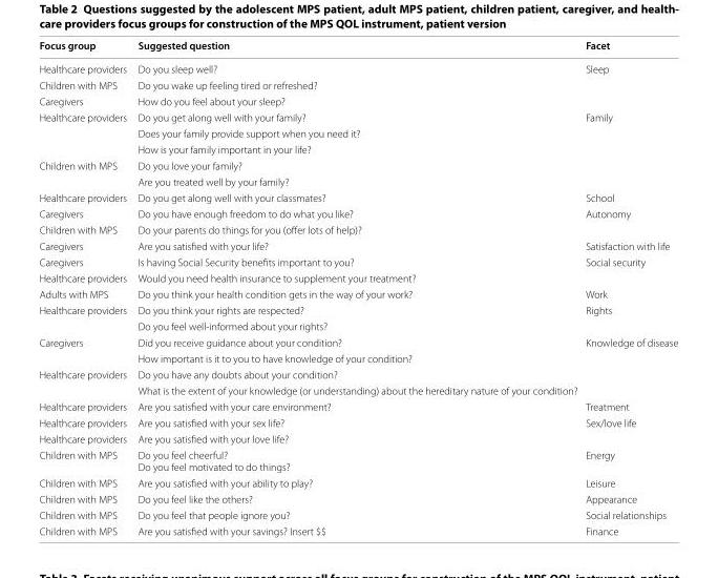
<table><thead><tr><td>Focus group</td><td>Suggested question</td><td>Facet</td></tr></thead><tbody><tr><td>Healthcare providers</td><td>Do you sleep well?</td><td rowspan="2">Sleep</td></tr><tr><td>Children with MPS</td><td>Do you wake up feeling tired or refreshed?</td></tr><tr><td>Caregivers</td><td>How do you feel about your sleep?</td><td></td></tr><tr><td rowspan="3">Healthcare providers</td><td>Do you get along well with your family?</td><td rowspan="5">Family</td></tr><tr><td>Does your family provide support when you need it?</td></tr><tr><td>How is your family important in your life?</td></tr><tr><td rowspan="2">Children with MPS</td><td>Do you love your family?</td></tr><tr><td>Are you treated well by your family?</td></tr><tr><td>Healthcare providers</td><td>Do you get along well with your classmates?</td><td>School</td></tr><tr><td>Caregivers</td><td>Do you have enough freedom to do what you like?</td><td rowspan="2">Autonomy</td></tr><tr><td>Children with MPS</td><td>Do your parents do things for you (offer lots of help)?</td></tr><tr><td>Caregivers</td><td>Are you satisfied with your life?</td><td>Satisfaction with life</td></tr><tr><td>Caregivers</td><td>Is having Social Security benefits important to you?</td><td>Social security</td></tr><tr><td>Healthcare providers</td><td>Would you need health insurance to supplement your treatment?</td><td></td></tr><tr><td>Adults with MPS</td><td>Do you think your health condition gets in the way of your work?</td><td>Work</td></tr><tr><td rowspan="2">Healthcare providers</td><td>Do you think your rights are respected?</td><td>Rights</td></tr><tr><td>Do you feel well-informed about your rights?</td><td></td></tr><tr><td rowspan="2">Caregivers</td><td>Did you receive guidance about your condition?</td><td>Knowledge of disease</td></tr><tr><td>How important is it to you to have knowledge of your condition?</td><td></td></tr><tr><td rowspan="2">Healthcare providers</td><td>Do you have any doubts about your condition?</td><td></td></tr><tr><td>What is the extent of your knowledge (or understanding) about the hereditary nature of your condition?</td><td></td></tr><tr><td>Healthcare providers</td><td>Are you satisfied with your care environment?</td><td>Treatment</td></tr><tr><td>Healthcare providers</td><td>Are you satisfied with your sex life?</td><td>Sex/love life</td></tr><tr><td>Healthcare providers</td><td>Are you satisfied with your love life?</td><td></td></tr><tr><td>Children with MPS</td><td>Do you feel cheerful? Do you feel motivated to do things?</td><td>Energy</td></tr><tr><td>Children with MPS</td><td>Are you satisfied with your ability to play?</td><td>Leisure</td></tr><tr><td>Children with MPS</td><td>Do you feel like the others?</td><td>Appearance</td></tr><tr><td>Children with MPS</td><td>Do you feel that people ignore you?</td><td>Social relationships</td></tr><tr><td>Children with MPS</td><td>Are you satisfied with your savings? Insert $$</td><td>Finance</td></tr></tbody></table>